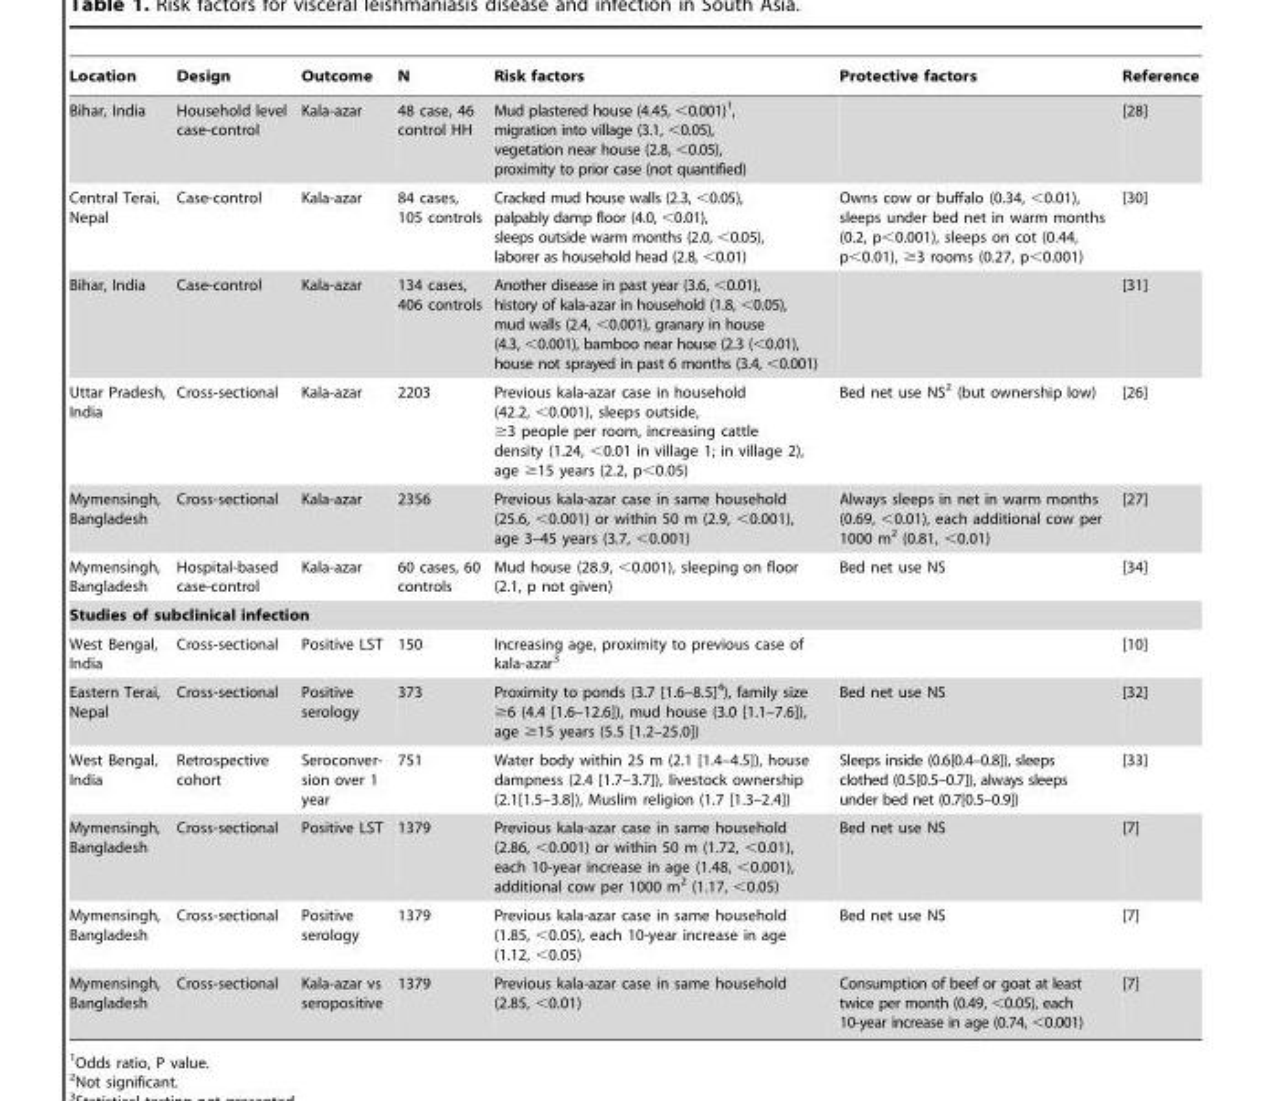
<table><thead><tr><td>Location</td><td>Design</td><td>Outcome</td><td>N</td><td>Risk factors</td><td>Protective factors</td><td>Reference</td></tr></thead><tbody><tr><td>Bihar, India</td><td>Household level case-control</td><td>Kala-azar</td><td>48 case, 46 control HH</td><td>Mud plastered house (4.45, &lt;0.001)<sup>1</sup>, migration into village (3.1, &lt;0.05), vegetation near house (2.8, &lt;0.05), proximity to prior case (not quantified)</td><td></td><td>[28]</td></tr><tr><td>Central Terai, Nepal</td><td>Case-control</td><td>Kala-azar</td><td>84 cases, 105 controls</td><td>Cracked mud house walls (2.3, &lt;0.05), palpably damp floor (4.0, &lt;0.01), sleeps outside warm months (2.0, &lt;0.05), laborer as household head (2.8, &lt;0.01)</td><td>Owns cow or buffalo (0.34, &lt;0.01), sleeps under bed net in warm months (0.2, p&lt;0.001), sleeps on cot (0.44, p&lt;0.01), ≥3 rooms (0.27, p&lt;0.001)</td><td>[30]</td></tr><tr><td>Bihar, India</td><td>Case-control</td><td>Kala-azar</td><td>134 cases, 406 controls</td><td>Another disease in past year (3.6, &lt;0.01), history of kala-azar in household (1.8, &lt;0.05), mud walls (2.4, &lt;0.001), granary in house (4.3, &lt;0.001), bamboo near house (2.3 (&lt;0.01), house not sprayed in past 6 months (3.4, &lt;0.001)</td><td></td><td>[31]</td></tr><tr><td>Uttar Pradesh, India</td><td>Cross-sectional</td><td>Kala-azar</td><td>2203</td><td>Previous kala-azar case in household (42.2, &lt;0.001), sleeps outside, ≥3 people per room, increasing cattle density (1.24, &lt;0.01 in village 1; in village 2), age ≥15 years (2.2, p&lt;0.05)</td><td>Bed net use NS<sup>2</sup> (but ownership low)</td><td>[26]</td></tr><tr><td>Mymensingh, Bangladesh</td><td>Cross-sectional</td><td>Kala-azar</td><td>2356</td><td>Previous kala-azar case in same household (25.6, &lt;0.001) or within 50 m (2.9, &lt;0.001), age 3–45 years (3.7, &lt;0.001)</td><td>Always sleeps in net in warm months (0.69, &lt;0.01), each additional cow per 1000 m<sup>2</sup> (0.81, &lt;0.01)</td><td>[27]</td></tr><tr><td>Mymensingh, Bangladesh</td><td>Hospital-based case-control</td><td>Kala-azar</td><td>60 cases, 60 controls</td><td>Mud house (28.9, &lt;0.001), sleeping on floor (2.1, p not given)</td><td>Bed net use NS</td><td>[34]</td></tr><tr><td colspan="7">Studies of subclinical infection</td></tr><tr><td>West Bengal, India</td><td>Cross-sectional</td><td>Positive LST</td><td>150</td><td>Increasing age, proximity to previous case of kala-azar<sup>3</sup></td><td></td><td>[10]</td></tr><tr><td>Eastern Terai, Nepal</td><td>Cross-sectional</td><td>Positive serology</td><td>373</td><td>Proximity to ponds (3.7 [1.6–8.5]<sup>4</sup>), family size ≥6 (4.4 [1.6–12.6]), mud house (3.0 [1.1–7.6]), age ≥15 years (5.5 [1.2–25.0])</td><td>Bed net use NS</td><td>[32]</td></tr><tr><td>West Bengal, India</td><td>Retrospective cohort</td><td>Seroconver- sion over 1 year</td><td>751</td><td>Water body within 25 m (2.1 [1.4–4.5]), house dampness (2.4 [1.7–3.7]), livestock ownership (2.1[1.5–3.8]), Muslim religion (1.7 [1.3–2.4])</td><td>Sleeps inside (0.6[0.4–0.8]), sleeps clothed (0.5[0.5–0.7]), always sleeps under bed net (0.7[0.5–0.9])</td><td>[33]</td></tr><tr><td>Mymensingh, Bangladesh</td><td>Cross-sectional</td><td>Positive LST</td><td>1379</td><td>Previous kala-azar case in same household (2.86, &lt;0.001) or within 50 m (1.72, &lt;0.01), each 10-year increase in age (1.48, &lt;0.001), additional cow per 1000 m<sup>2</sup> (1.17, &lt;0.05)</td><td>Bed net use NS</td><td>[7]</td></tr><tr><td>Mymensingh, Bangladesh</td><td>Cross-sectional</td><td>Positive serology</td><td>1379</td><td>Previous kala-azar case in same household (1.85, &lt;0.05), each 10-year increase in age (1.12, &lt;0.05)</td><td>Bed net use NS</td><td>[7]</td></tr><tr><td>Mymensingh, Bangladesh</td><td>Cross-sectional</td><td>Kala-azar vs seropositive</td><td>1379</td><td>Previous kala-azar case in same household (2.85, &lt;0.01)</td><td>Consumption of beef or goat at least twice per month (0.49, &lt;0.05), each 10-year increase in age (0.74, &lt;0.001)</td><td>[7]</td></tr></tbody></table>